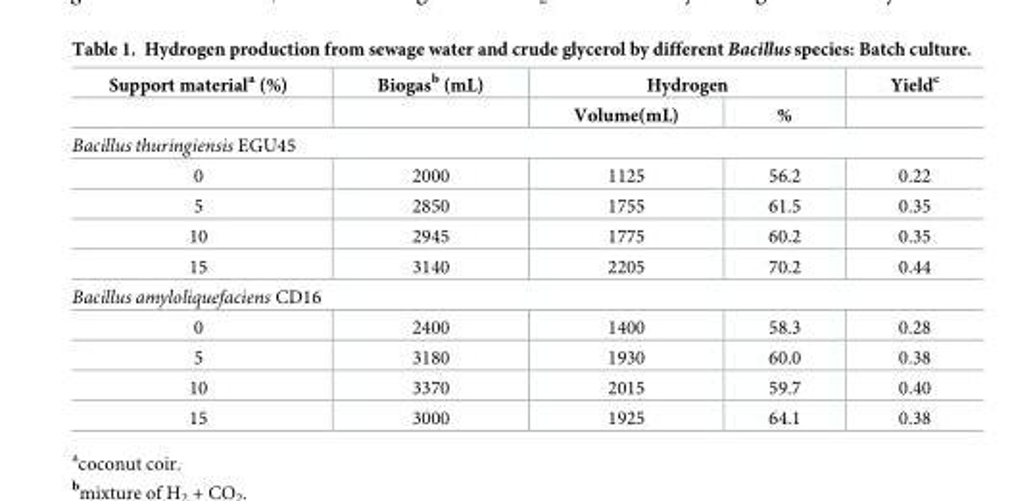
<table><thead><tr><td rowspan="2">Support material<sup>a</sup> (%)</td><td rowspan="2">Biogas<sup>b</sup> (mL)</td><td colspan="2">Hydrogen</td><td rowspan="2">Yield<sup>c</sup></td></tr><tr><td>Volume(mL)</td><td>%</td></tr></thead><tbody><tr><td colspan="5">Bacillus thuringiensis EGU45</td></tr><tr><td>0</td><td>2000</td><td>1125</td><td>56.2</td><td>0.22</td></tr><tr><td>5</td><td>2850</td><td>1755</td><td>61.5</td><td>0.35</td></tr><tr><td>10</td><td>2945</td><td>1775</td><td>60.2</td><td>0.35</td></tr><tr><td>15</td><td>3140</td><td>2205</td><td>70.2</td><td>0.44</td></tr><tr><td colspan="5">Bacillus amyloliquefaciens CD16</td></tr><tr><td>0</td><td>2400</td><td>1400</td><td>58.3</td><td>0.28</td></tr><tr><td>5</td><td>3180</td><td>1930</td><td>60.0</td><td>0.38</td></tr><tr><td>10</td><td>3370</td><td>2015</td><td>59.7</td><td>0.40</td></tr><tr><td>15</td><td>3000</td><td>1925</td><td>64.1</td><td>0.38</td></tr></tbody></table>